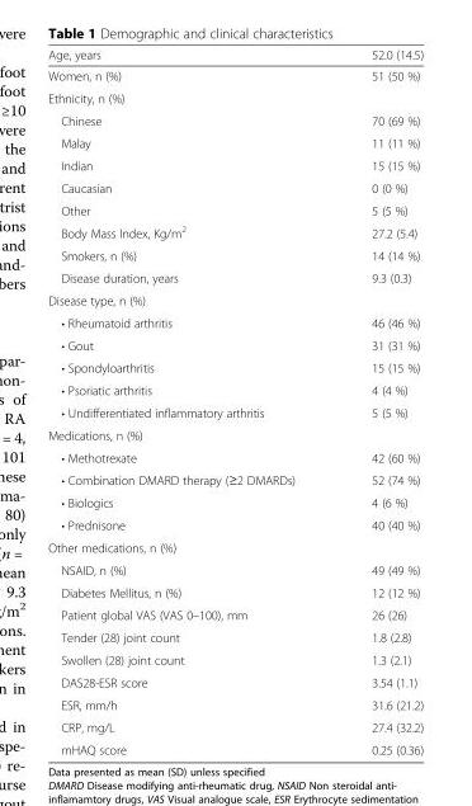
<table><thead><tr><td>Age, years</td><td>52.0 (14.5)</td></tr></thead><tbody><tr><td>Women, n (%)</td><td>51 (50 %)</td></tr><tr><td colspan="2">Ethnicity, n (%)</td></tr><tr><td>Chinese</td><td>70 (69 %)</td></tr><tr><td>Malay</td><td>11 (11 %)</td></tr><tr><td>Indian</td><td>15 (15 %)</td></tr><tr><td>Caucasian</td><td>0 (0 %)</td></tr><tr><td>Other</td><td>5 (5 %)</td></tr><tr><td>Body Mass Index, Kg/m<sup>2</sup></td><td>27.2 (5.4)</td></tr><tr><td>Smokers, n (%)</td><td>14 (14 %)</td></tr><tr><td>Disease duration, years</td><td>9.3 (0.3)</td></tr><tr><td colspan="2">Disease type, n (%)</td></tr><tr><td>• Rheumatoid arthritis</td><td>46 (46 %)</td></tr><tr><td>• Gout</td><td>31 (31 %)</td></tr><tr><td>• Spondyloarthritis</td><td>15 (15 %)</td></tr><tr><td>• Psoriatic arthritis</td><td>4 (4 %)</td></tr><tr><td>• Undifferentiated inflammatory arthritis</td><td>5 (5 %)</td></tr><tr><td colspan="2">Medications, n (%)</td></tr><tr><td>• Methotrexate</td><td>42 (60 %)</td></tr><tr><td>• Combination DMARD therapy (≥2 DMARDs)</td><td>52 (74 %)</td></tr><tr><td>• Biologics</td><td>4 (6 %)</td></tr><tr><td>• Prednisone</td><td>40 (40 %)</td></tr><tr><td colspan="2">Other medications, n (%)</td></tr><tr><td>NSAID, n (%)</td><td>49 (49 %)</td></tr><tr><td>Diabetes Mellitus, n (%)</td><td>12 (12 %)</td></tr><tr><td>Patient global VAS (VAS 0–100), mm</td><td>26 (26)</td></tr><tr><td>Tender (28) joint count</td><td>1.8 (2.8)</td></tr><tr><td>Swollen (28) joint count</td><td>1.3 (2.1)</td></tr><tr><td>DAS28-ESR score</td><td>3.54 (1.1)</td></tr><tr><td>ESR, mm/h</td><td>31.6 (21.2)</td></tr><tr><td>CRP, mg/L</td><td>27.4 (32.2)</td></tr><tr><td>mHAQ score</td><td>0.25 (0.36)</td></tr></tbody></table>